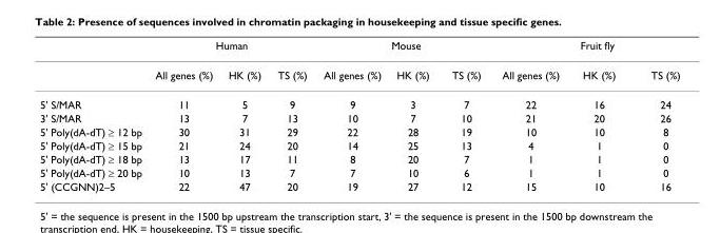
<table><thead><tr><td rowspan="2"></td><td colspan="3">Human</td><td colspan="3">Mouse</td><td colspan="3">Fruit fly</td></tr><tr><td>All genes (%)</td><td>HK (%)</td><td>TS (%)</td><td>All genes (%)</td><td>HK (%)</td><td>TS (%)</td><td>All genes (%)</td><td>HK (%)</td><td>TS (%)</td></tr></thead><tbody><tr><td>5&#x27; S/MAR</td><td>11</td><td>5</td><td>9</td><td>9</td><td>3</td><td>7</td><td>22</td><td>16</td><td>24</td></tr><tr><td>3&#x27; S/MAR</td><td>13</td><td>7</td><td>13</td><td>10</td><td>7</td><td>10</td><td>21</td><td>20</td><td>26</td></tr><tr><td>5&#x27; Poly(dA-dT) ≥ 12 bp</td><td>30</td><td>31</td><td>29</td><td>22</td><td>28</td><td>19</td><td>10</td><td>10</td><td>8</td></tr><tr><td>5&#x27; Poly(dA-dT) ≥ 15 bp</td><td>21</td><td>24</td><td>20</td><td>14</td><td>25</td><td>13</td><td>4</td><td>1</td><td>0</td></tr><tr><td>5&#x27; Poly(dA-dT) ≥ 18 bp</td><td>13</td><td>17</td><td>11</td><td>8</td><td>20</td><td>7</td><td>1</td><td>1</td><td>0</td></tr><tr><td>5&#x27; Poly(dA-dT) ≥ 20 bp</td><td>10</td><td>13</td><td>7</td><td>7</td><td>10</td><td>6</td><td>1</td><td>1</td><td>0</td></tr><tr><td>5&#x27; (CCGNN)2–5</td><td>22</td><td>47</td><td>20</td><td>19</td><td>27</td><td>12</td><td>15</td><td>10</td><td>16</td></tr></tbody></table>